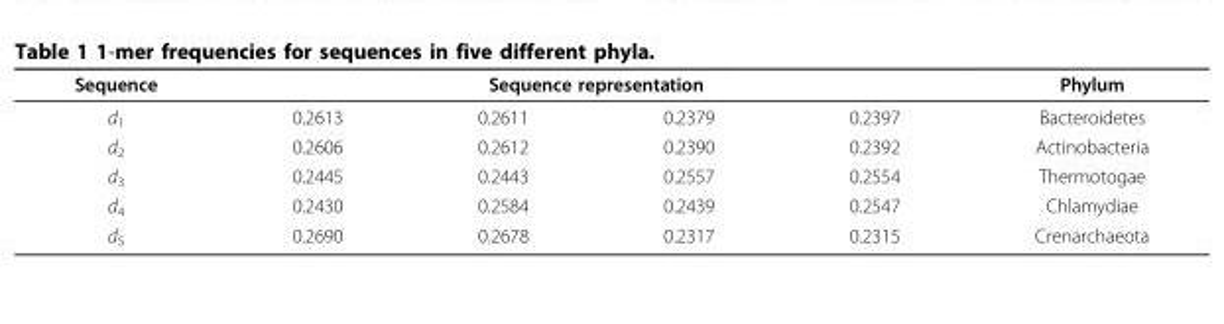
<table><thead><tr><td rowspan="2">Sequence d<sub>1</sub></td><td colspan="4">Sequence representation</td><td rowspan="2">Phylum Bacteroidetes</td></tr><tr><td>0.2613</td><td>0.2611</td><td>0.2379</td><td>0.2397</td></tr></thead><tbody><tr><td>d<sub>2</sub></td><td>0.2606</td><td>0.2612</td><td>0.2390</td><td>0.2392</td><td>Actinobacteria</td></tr><tr><td>d<sub>3</sub></td><td>0.2445</td><td>0.2443</td><td>0.2557</td><td>0.2554</td><td>Thermotogae</td></tr><tr><td>d<sub>4</sub></td><td>0.2430</td><td>0.2584</td><td>0.2439</td><td>0.2547</td><td>Chlamydiae</td></tr><tr><td>d<sub>5</sub></td><td>0.2690</td><td>0.2678</td><td>0.2317</td><td>0.2315</td><td>Crenarchaeota</td></tr></tbody></table>